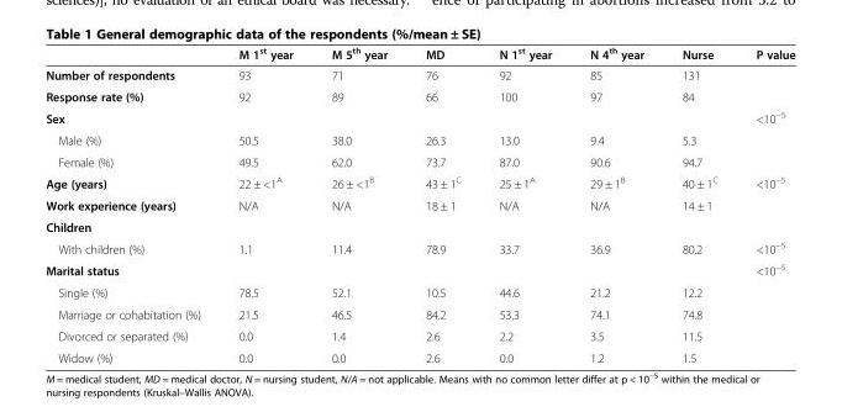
<table><thead><tr><td></td><td>M 1<sup>st</sup> year</td><td>M 5<sup>th</sup> year</td><td>MD</td><td>N 1<sup>st</sup> year</td><td>N 4<sup>th</sup> year</td><td>Nurse</td><td>P value</td></tr></thead><tbody><tr><td>Number of respondents</td><td>93</td><td>71</td><td>76</td><td>92</td><td>85</td><td>131</td><td></td></tr><tr><td>Response rate (%)</td><td>92</td><td>89</td><td>66</td><td>100</td><td>97</td><td>84</td><td></td></tr><tr><td>Sex</td><td></td><td></td><td></td><td></td><td></td><td></td><td>&lt;10<sup>−5</sup></td></tr><tr><td>Male (%)</td><td>50.5</td><td>38.0</td><td>26.3</td><td>13.0</td><td>9.4</td><td>5.3</td><td></td></tr><tr><td>Female (%)</td><td>49.5</td><td>62.0</td><td>73.7</td><td>87.0</td><td>90.6</td><td>94.7</td><td></td></tr><tr><td>Age (years)</td><td>22 ± &lt;1<sup>A</sup></td><td>26 ± &lt;1<sup>B</sup></td><td>43 ± 1<sup>C</sup></td><td>25 ± 1<sup>A</sup></td><td>29 ± 1<sup>B</sup></td><td>40 ± 1<sup>C</sup></td><td>&lt;10<sup>−5</sup></td></tr><tr><td>Work experience (years)</td><td>N/A</td><td>N/A</td><td>18 ± 1</td><td>N/A</td><td>N/A</td><td>14 ± 1</td><td></td></tr><tr><td colspan="8">Children</td></tr><tr><td>With children (%)</td><td>1.1</td><td>11.4</td><td>78.9</td><td>33.7</td><td>36.9</td><td>80.2</td><td>&lt;10<sup>−5</sup></td></tr><tr><td>Marital status</td><td></td><td></td><td></td><td></td><td></td><td></td><td>&lt;10<sup>−5</sup></td></tr><tr><td>Single (%)</td><td>78.5</td><td>52.1</td><td>10.5</td><td>44.6</td><td>21.2</td><td>12.2</td><td></td></tr><tr><td>Marriage or cohabitation (%)</td><td>21.5</td><td>46.5</td><td>84.2</td><td>53.3</td><td>74.1</td><td>74.8</td><td></td></tr><tr><td>Divorced or separated (%)</td><td>0.0</td><td>1.4</td><td>2.6</td><td>2.2</td><td>3.5</td><td>11.5</td><td></td></tr><tr><td>Widow (%)</td><td>0.0</td><td>0.0</td><td>2.6</td><td>0.0</td><td>1.2</td><td>1.5</td><td></td></tr></tbody></table>